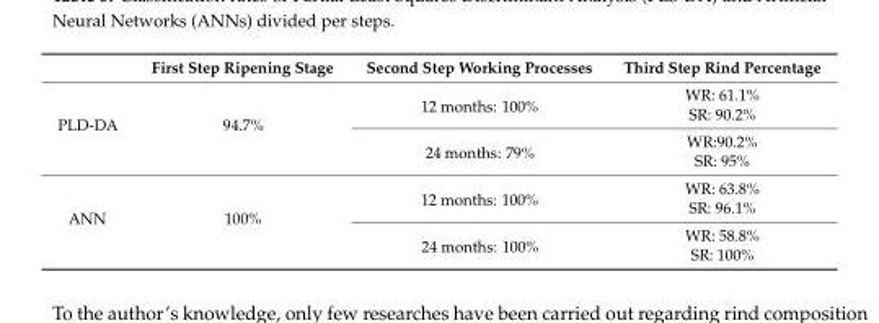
<table><thead><tr><td></td><td>First Step Ripening Stage</td><td>Second Step Working Processes</td><td>Third Step Rind Percentage</td></tr></thead><tbody><tr><td rowspan="4">PLD-DA</td><td rowspan="4">94.7%</td><td rowspan="2">12 months: 100%</td><td>WR: 61.1%</td></tr><tr><td>SR: 90.2%</td></tr><tr><td rowspan="2">24 months: 79%</td><td>WR:90.2%</td></tr><tr><td>SR: 95%</td></tr><tr><td rowspan="4">ANN</td><td rowspan="4">100%</td><td rowspan="2">12 months: 100%</td><td>WR: 63.8%</td></tr><tr><td>SR: 96.1%</td></tr><tr><td rowspan="2">24 months: 100%</td><td>WR: 58.8%</td></tr><tr><td>SR: 100%</td></tr></tbody></table>